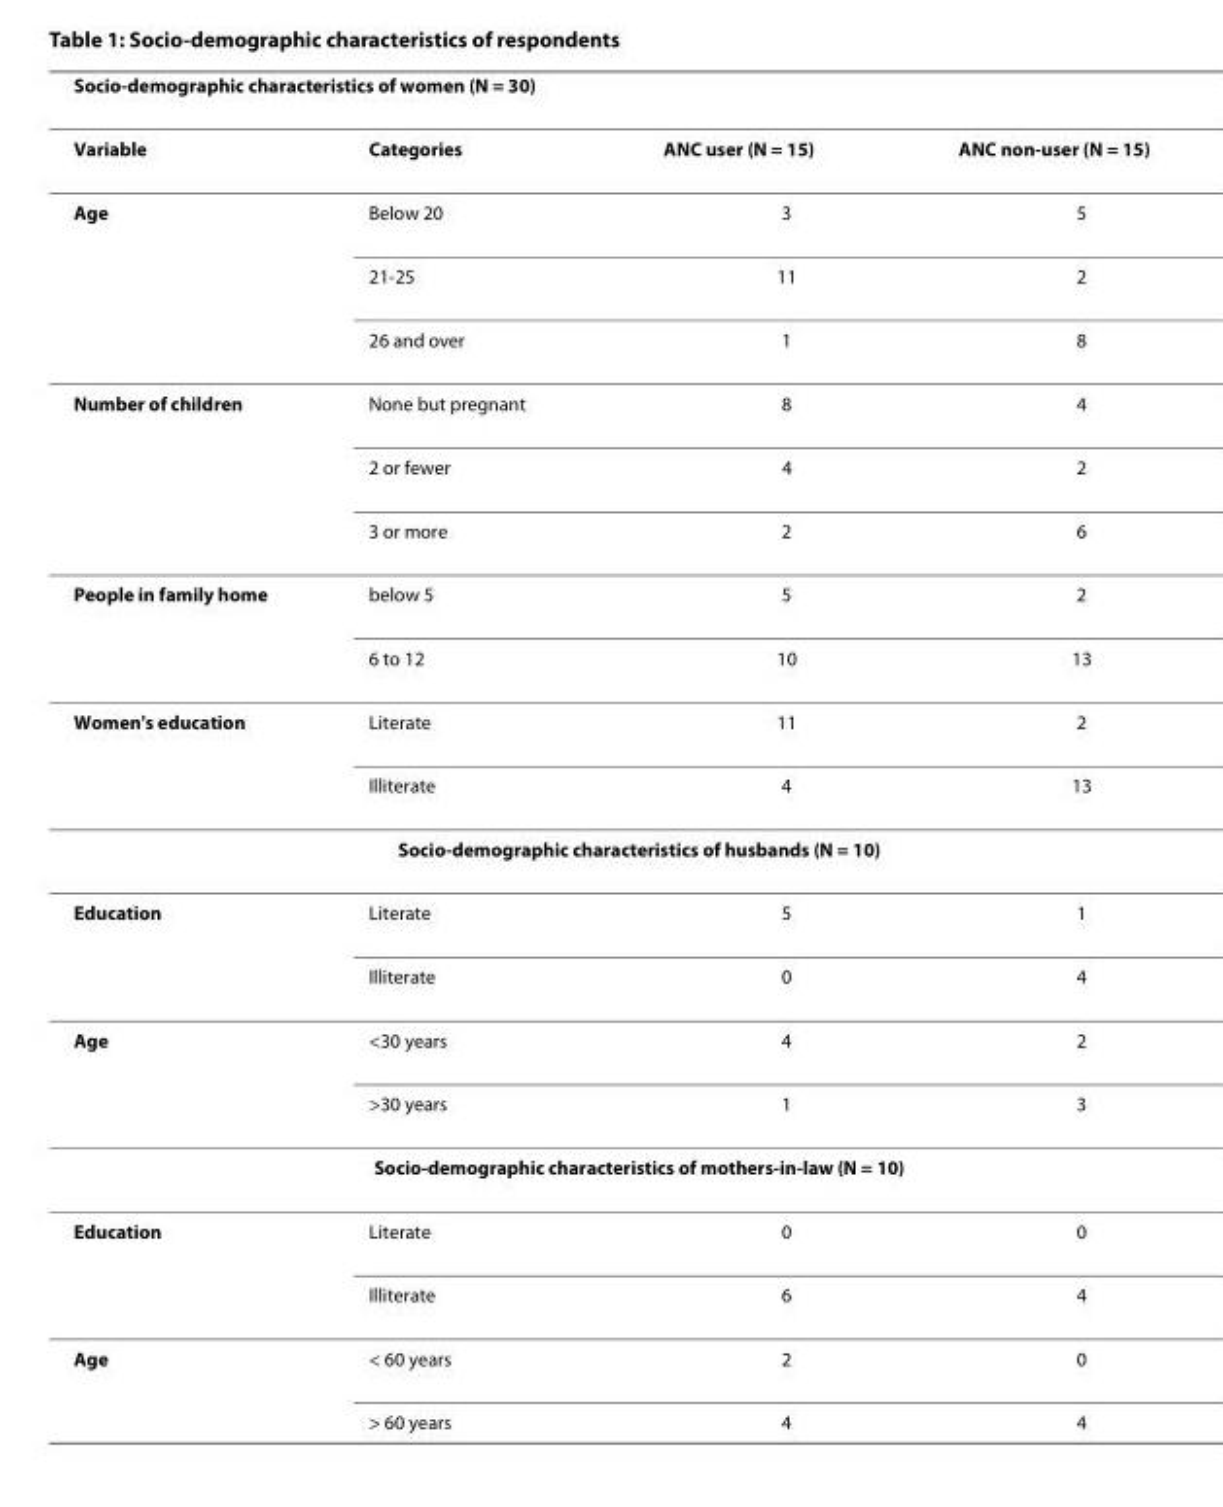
<table><thead><tr><td colspan="4">Socio-demographic characteristics of women (N = 30)</td></tr><tr><td>Variable</td><td>Categories</td><td>ANC user (N = 15)</td><td>ANC non-user (N = 15)</td></tr></thead><tbody><tr><td rowspan="3">Age</td><td>Below 20</td><td>3</td><td>5</td></tr><tr><td>21-25</td><td>11</td><td>2</td></tr><tr><td>26 and over</td><td>1</td><td>8</td></tr><tr><td rowspan="3">Number of children</td><td>None but pregnant</td><td>8</td><td>4</td></tr><tr><td>2 or fewer</td><td>4</td><td>2</td></tr><tr><td>3 or more</td><td>2</td><td>6</td></tr><tr><td rowspan="2">People in family home</td><td>below 5</td><td>5</td><td>2</td></tr><tr><td>6 to 12</td><td>10</td><td>13</td></tr><tr><td rowspan="2">Women&#x27;s education</td><td>Literate</td><td>11</td><td>2</td></tr><tr><td>Illiterate</td><td>4</td><td>13</td></tr><tr><td colspan="4">Socio-demographic characteristics of husbands (N = 10)</td></tr><tr><td rowspan="2">Education</td><td>Literate</td><td>5</td><td>1</td></tr><tr><td>Illiterate</td><td>0</td><td>4</td></tr><tr><td rowspan="2">Age</td><td>&lt;30 years</td><td>4</td><td>2</td></tr><tr><td>&gt;30 years</td><td>1</td><td>3</td></tr><tr><td colspan="4">Socio-demographic characteristics of mothers-in-law (N = 10)</td></tr><tr><td rowspan="2">Education</td><td>Literate</td><td>0</td><td>0</td></tr><tr><td>Illiterate</td><td>6</td><td>4</td></tr><tr><td rowspan="2">Age</td><td>&lt; 60 years</td><td>2</td><td>0</td></tr><tr><td>&gt; 60 years</td><td>4</td><td>4</td></tr></tbody></table>